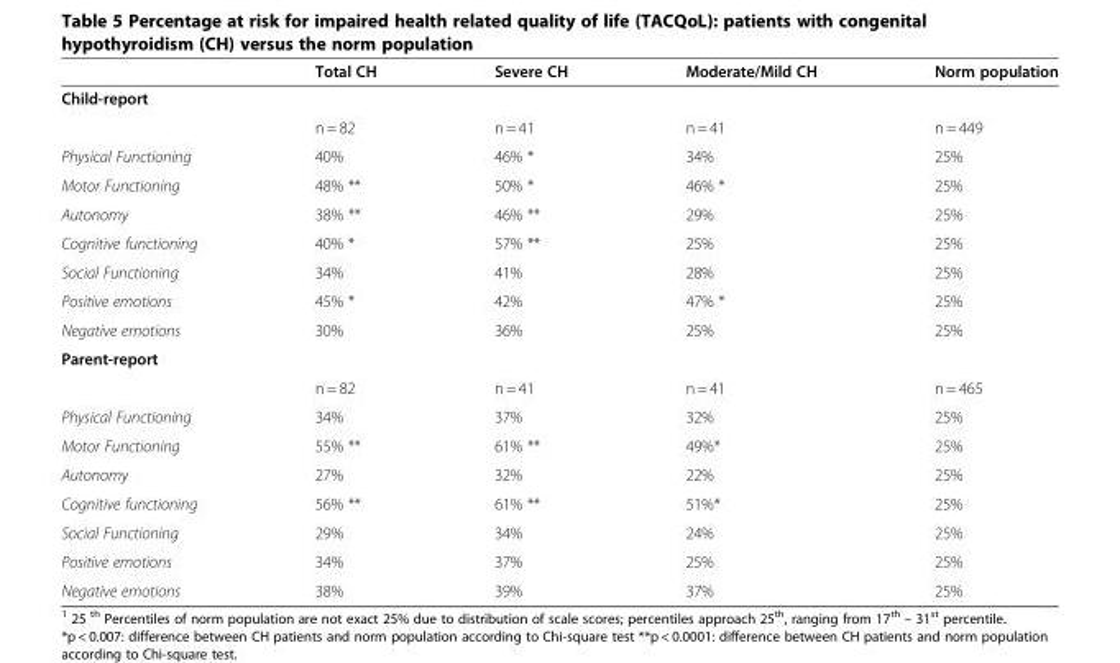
<table><thead><tr><td></td><td>Total CH</td><td>Severe CH</td><td>Moderate/Mild CH</td><td>Norm population</td></tr></thead><tbody><tr><td colspan="5">Child-report</td></tr><tr><td></td><td>n = 82</td><td>n = 41</td><td>n = 41</td><td>n = 449</td></tr><tr><td>Physical Functioning</td><td>40%</td><td>46% *</td><td>34%</td><td>25%</td></tr><tr><td>Motor Functioning</td><td>48% **</td><td>50% *</td><td>46% *</td><td>25%</td></tr><tr><td>Autonomy</td><td>38% **</td><td>46% **</td><td>29%</td><td>25%</td></tr><tr><td>Cognitive functioning</td><td>40% *</td><td>57% **</td><td>25%</td><td>25%</td></tr><tr><td>Social Functioning</td><td>34%</td><td>41%</td><td>28%</td><td>25%</td></tr><tr><td>Positive emotions</td><td>45% *</td><td>42%</td><td>47% *</td><td>25%</td></tr><tr><td>Negative emotions</td><td>30%</td><td>36%</td><td>25%</td><td>25%</td></tr><tr><td colspan="5">Parent-report</td></tr><tr><td></td><td>n = 82</td><td>n = 41</td><td>n = 41</td><td>n = 465</td></tr><tr><td>Physical Functioning</td><td>34%</td><td>37%</td><td>32%</td><td>25%</td></tr><tr><td>Motor Functioning</td><td>55% **</td><td>61% **</td><td>49%*</td><td>25%</td></tr><tr><td>Autonomy</td><td>27%</td><td>32%</td><td>22%</td><td>25%</td></tr><tr><td>Cognitive functioning</td><td>56% **</td><td>61% **</td><td>51%*</td><td>25%</td></tr><tr><td>Social Functioning</td><td>29%</td><td>34%</td><td>24%</td><td>25%</td></tr><tr><td>Positive emotions</td><td>34%</td><td>37%</td><td>25%</td><td>25%</td></tr><tr><td>Negative emotions</td><td>38%</td><td>39%</td><td>37%</td><td>25%</td></tr></tbody></table>